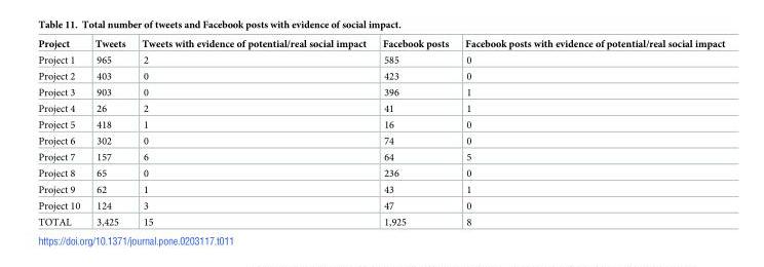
<table><thead><tr><td>Project</td><td>Tweets</td><td>Tweets with evidence of potential/real social impact</td><td>Facebook posts</td><td>Facebook posts with evidence of potential/real social impact</td></tr></thead><tbody><tr><td>Project 1</td><td>965</td><td>2</td><td>585</td><td>0</td></tr><tr><td>Project 2</td><td>403</td><td>0</td><td>423</td><td>0</td></tr><tr><td>Project 3</td><td>903</td><td>0</td><td>396</td><td>1</td></tr><tr><td>Project 4</td><td>26</td><td>2</td><td>41</td><td>1</td></tr><tr><td>Project 5</td><td>418</td><td>1</td><td>16</td><td>0</td></tr><tr><td>Project 6</td><td>302</td><td>0</td><td>74</td><td>0</td></tr><tr><td>Project 7</td><td>157</td><td>6</td><td>64</td><td>5</td></tr><tr><td>Project 8</td><td>65</td><td>0</td><td>236</td><td>0</td></tr><tr><td>Project 9</td><td>62</td><td>1</td><td>43</td><td>1</td></tr><tr><td>Project 10</td><td>124</td><td>3</td><td>47</td><td>0</td></tr><tr><td>TOTAL</td><td>3,425</td><td>15</td><td>1,925</td><td>8</td></tr></tbody></table>